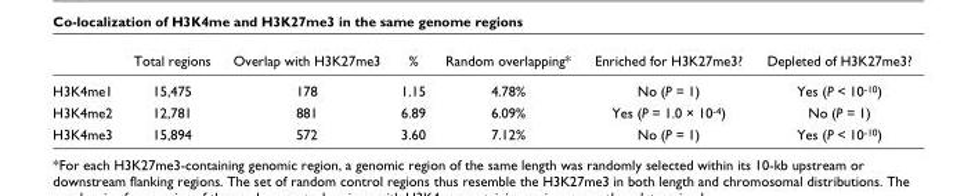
<table><thead><tr><td></td><td>Total regions</td><td>Overlap with H3K27me3</td><td>%</td><td>Random overlapping*</td><td>Enriched for H3K27me3?</td><td>Depleted of H3K27me3?</td></tr></thead><tbody><tr><td>H3K4me1</td><td>15,475</td><td>178</td><td>1.15</td><td>4.78%</td><td>No (P = 1)</td><td>Yes (P &lt; 10<sup>-10</sup>)</td></tr><tr><td>H3K4me2</td><td>12,781</td><td>881</td><td>6.89</td><td>6.09%</td><td>Yes (P = 1.0 × 10<sup>-4</sup>)</td><td>No (P = 1)</td></tr><tr><td>H3K4me3</td><td>15,894</td><td>572</td><td>3.60</td><td>7.12%</td><td>No (P = 1)</td><td>Yes (P &lt; 10<sup>-10</sup>)</td></tr></tbody></table>